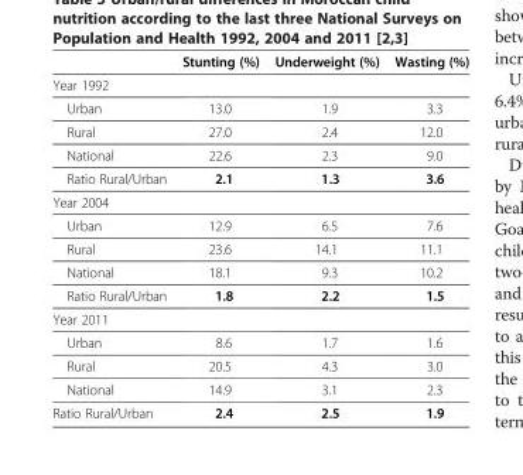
<table><thead><tr><td></td><td>Stunting (%)</td><td>Underweight (%)</td><td>Wasting (%)</td></tr></thead><tbody><tr><td colspan="4">Year 1992</td></tr><tr><td>Urban</td><td>13.0</td><td>1.9</td><td>3.3</td></tr><tr><td>Rural</td><td>27.0</td><td>2.4</td><td>12.0</td></tr><tr><td>National</td><td>22.6</td><td>2.3</td><td>9.0</td></tr><tr><td>Ratio Rural/Urban</td><td>2.1</td><td>1.3</td><td>3.6</td></tr><tr><td colspan="4">Year 2004</td></tr><tr><td>Urban</td><td>12.9</td><td>6.5</td><td>7.6</td></tr><tr><td>Rural</td><td>23.6</td><td>14.1</td><td>11.1</td></tr><tr><td>National</td><td>18.1</td><td>9.3</td><td>10.2</td></tr><tr><td>Ratio Rural/Urban</td><td>1.8</td><td>2.2</td><td>1.5</td></tr><tr><td colspan="4">Year 2011</td></tr><tr><td>Urban</td><td>8.6</td><td>1.7</td><td>1.6</td></tr><tr><td>Rural</td><td>20.5</td><td>4.3</td><td>3.0</td></tr><tr><td>National</td><td>14.9</td><td>3.1</td><td>2.3</td></tr><tr><td>Ratio Rural/Urban</td><td>2.4</td><td>2.5</td><td>1.9</td></tr></tbody></table>